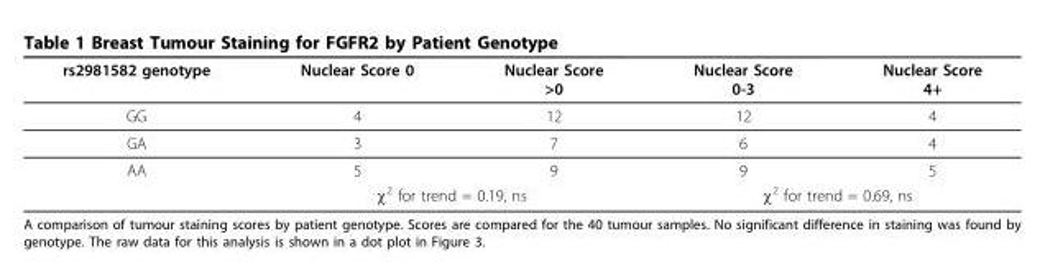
<table><thead><tr><td>rs2981582 genotype</td><td>Nuclear Score 0</td><td>Nuclear Score &gt;0</td><td>Nuclear Score 0-3</td><td>Nuclear Score 4+</td></tr></thead><tbody><tr><td>GG</td><td>4</td><td>12</td><td>12</td><td>4</td></tr><tr><td>GA</td><td>3</td><td>7</td><td>6</td><td>4</td></tr><tr><td rowspan="2">AA</td><td>5</td><td>9</td><td>9</td><td>5</td></tr><tr><td colspan="2">χ<sup>2</sup> for trend = 0.19, ns</td><td colspan="2">χ<sup>2</sup> for trend = 0.69, ns</td></tr></tbody></table>